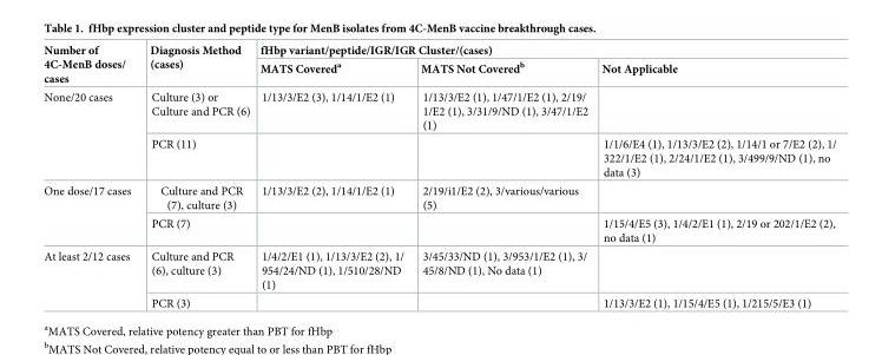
<table><thead><tr><td rowspan="2">Number of 4C-MenB doses/ cases</td><td rowspan="2">Diagnosis Method (cases)</td><td colspan="3">fHbp variant/peptide/IGR/IGR Cluster/(cases)</td></tr><tr><td>MATS Covered<sup>a</sup></td><td>MATS Not Covered<sup>b</sup></td><td>Not Applicable</td></tr></thead><tbody><tr><td rowspan="2">None/20 cases</td><td>Culture (3) or Culture and PCR (6)</td><td>1/13/3/E2 (3), 1/14/1/E2 (1)</td><td>1/13/3/E2 (1), 1/47/1/E2 (1), 2/19/ 1/E2 (1), 3/31/9/ND (1), 3/47/1/E2 (1)</td><td></td></tr><tr><td>PCR (11)</td><td></td><td></td><td>1/1/6/E4 (1), 1/13/3/E2 (2), 1/14/1 or 7/E2 (2), 1/ 322/1/E2 (1), 2/24/1/E2 (1), 3/499/9/ND (1), no data (3)</td></tr><tr><td rowspan="2">One dose/17 cases</td><td>Culture and PCR (7), culture (3)</td><td>1/13/3/E2 (2), 1/14/1/E2 (1)</td><td>2/19/i1/E2 (2), 3/various/various (5)</td><td></td></tr><tr><td>PCR (7)</td><td></td><td></td><td>1/15/4/E5 (3), 1/4/2/E1 (1), 2/19 or 202/1/E2 (2), no data (1)</td></tr><tr><td rowspan="2">At least 2/12 cases</td><td>Culture and PCR (6), culture (3)</td><td>1/4/2/E1 (1), 1/13/3/E2 (2), 1/ 954/24/ND (1), 1/510/28/ND (1)</td><td>3/45/33/ND (1), 3/953/1/E2 (1), 3/ 45/8/ND (1), No data (1)</td><td></td></tr><tr><td>PCR (3)</td><td></td><td></td><td>1/13/3/E2 (1), 1/15/4/E5 (1), 1/215/5/E3 (1)</td></tr></tbody></table>